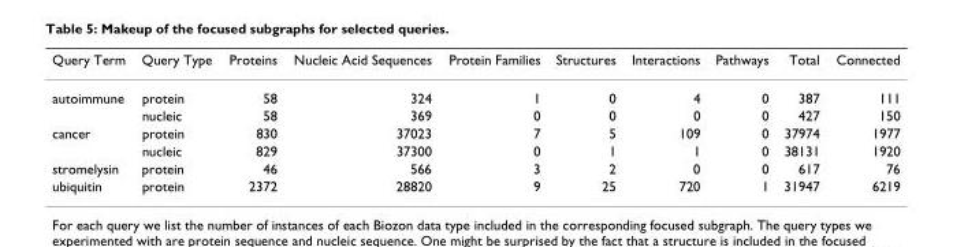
<table><thead><tr><td>Query Term</td><td>Query Type</td><td>Proteins</td><td>Nucleic Acid Sequences</td><td>Protein Families</td><td>Structures</td><td>Interactions</td><td>Pathways</td><td>Total</td><td>Connected</td></tr></thead><tbody><tr><td rowspan="2">autoimmune</td><td>protein</td><td>58</td><td>324</td><td>1</td><td>0</td><td>4</td><td>0</td><td>387</td><td>111</td></tr><tr><td>nucleic</td><td>58</td><td>369</td><td>0</td><td>0</td><td>0</td><td>0</td><td>427</td><td>150</td></tr><tr><td rowspan="2">cancer</td><td>protein</td><td>830</td><td>37023</td><td>7</td><td>5</td><td>109</td><td>0</td><td>37974</td><td>1977</td></tr><tr><td>nucleic</td><td>829</td><td>37300</td><td>0</td><td>1</td><td>1</td><td>0</td><td>38131</td><td>1920</td></tr><tr><td>stromelysin</td><td>protein</td><td>46</td><td>566</td><td>3</td><td>2</td><td>0</td><td>0</td><td>617</td><td>76</td></tr><tr><td>ubiquitin</td><td>protein</td><td>2372</td><td>28820</td><td>9</td><td>25</td><td>720</td><td>1</td><td>31947</td><td>6219</td></tr></tbody></table>